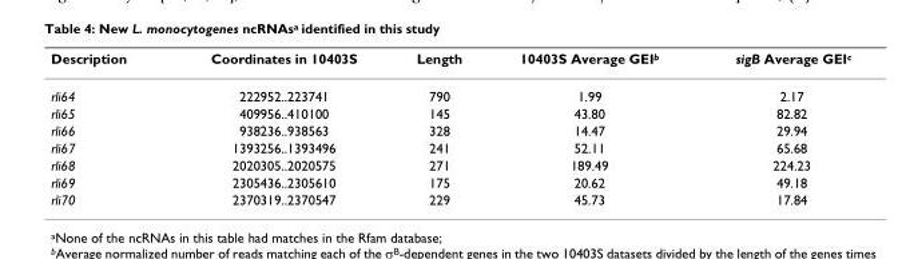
<table><thead><tr><td>Description</td><td>Coordinates in 10403S</td><td>Length</td><td>10403S Average GEI<sup>b</sup></td><td>sigB Average GEIc</td></tr></thead><tbody><tr><td>rli64</td><td>222952..223741</td><td>790</td><td>1.99</td><td>2.17</td></tr><tr><td>rli65</td><td>409956..410100</td><td>145</td><td>43.80</td><td>82.82</td></tr><tr><td>rli66</td><td>938236..938563</td><td>328</td><td>14.47</td><td>29.94</td></tr><tr><td>rli67</td><td>1393256..1393496</td><td>241</td><td>52.11</td><td>65.68</td></tr><tr><td>rli68</td><td>2020305..2020575</td><td>271</td><td>189.49</td><td>224.23</td></tr><tr><td>rli69</td><td>2305436..2305610</td><td>175</td><td>20.62</td><td>49.18</td></tr><tr><td>rli70</td><td>2370319..2370547</td><td>229</td><td>45.73</td><td>17.84</td></tr></tbody></table>